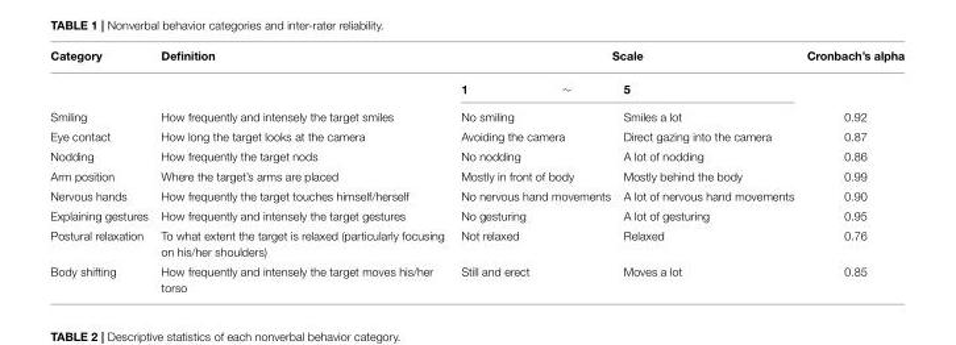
<table><thead><tr><td rowspan="2">Category</td><td rowspan="2">Definition</td><td colspan="2">Scale</td><td rowspan="2">Cronbach’s alpha</td></tr><tr><td>1 ∼</td><td>5</td></tr></thead><tbody><tr><td>Smiling</td><td>How frequently and intensely the target smiles</td><td>No smiling</td><td>Smiles a lot</td><td>0.92</td></tr><tr><td>Eye contact</td><td>How long the target looks at the camera</td><td>Avoiding the camera</td><td>Direct gazing into the camera</td><td>0.87</td></tr><tr><td>Nodding</td><td>How frequently the target nods</td><td>No nodding</td><td>A lot of nodding</td><td>0.86</td></tr><tr><td>Arm position</td><td>Where the target’s arms are placed</td><td>Mostly in front of body</td><td>Mostly behind the body</td><td>0.99</td></tr><tr><td>Nervous hands</td><td>How frequently the target touches himself/herself</td><td>No nervous hand movements</td><td>A lot of nervous hand movements</td><td>0.90</td></tr><tr><td>Explaining gestures</td><td>How frequently and intensely the target gestures</td><td>No gesturing</td><td>A lot of gesturing</td><td>0.95</td></tr><tr><td>Postural relaxation</td><td>To what extent the target is relaxed (particularly focusing on his/her shoulders)</td><td>Not relaxed</td><td>Relaxed</td><td>0.76</td></tr><tr><td>Body shifting</td><td>How frequently and intensely the target moves his/her torso</td><td>Still and erect</td><td>Moves a lot</td><td>0.85</td></tr></tbody></table>